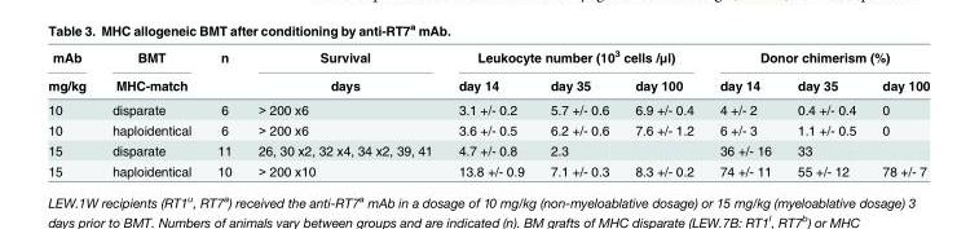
<table><thead><tr><td rowspan="2">mAb mg/kg</td><td rowspan="2">BMT MHC-match</td><td rowspan="2">n</td><td rowspan="2">Survival days</td><td colspan="3">Leukocyte number (10<sup>3</sup> cells /μl)</td><td colspan="3">Donor chimerism (%)</td></tr><tr><td>day 14</td><td>day 35</td><td>day 100</td><td>day 14</td><td>day 35</td><td>day 100</td></tr></thead><tbody><tr><td>10</td><td>disparate</td><td>6</td><td>&gt; 200 x6</td><td>3.1 +/- 0.2</td><td>5.7 +/- 0.6</td><td>6.9 +/- 0.4</td><td>4 +/- 2</td><td>0.4 +/- 0.4</td><td>0</td></tr><tr><td>10</td><td>haploidentical</td><td>6</td><td>&gt; 200 x6</td><td>3.6 +/- 0.5</td><td>6.2 +/- 0.6</td><td>7.6 +/- 1.2</td><td>6 +/- 3</td><td>1.1 +/- 0.5</td><td>0</td></tr><tr><td>15</td><td>disparate</td><td>11</td><td>26, 30 x2, 32 x4, 34 x2, 39, 41</td><td>4.7 +/- 0.8</td><td>2.3</td><td></td><td>36 +/- 16</td><td>33</td><td></td></tr><tr><td>15</td><td>haploidentical</td><td>10</td><td>&gt; 200 x10</td><td>13.8 +/- 0.9</td><td>7.1 +/- 0.3</td><td>8.3 +/- 0.2</td><td>74 +/- 11</td><td>55 +/- 12</td><td>78 +/- 7</td></tr></tbody></table>